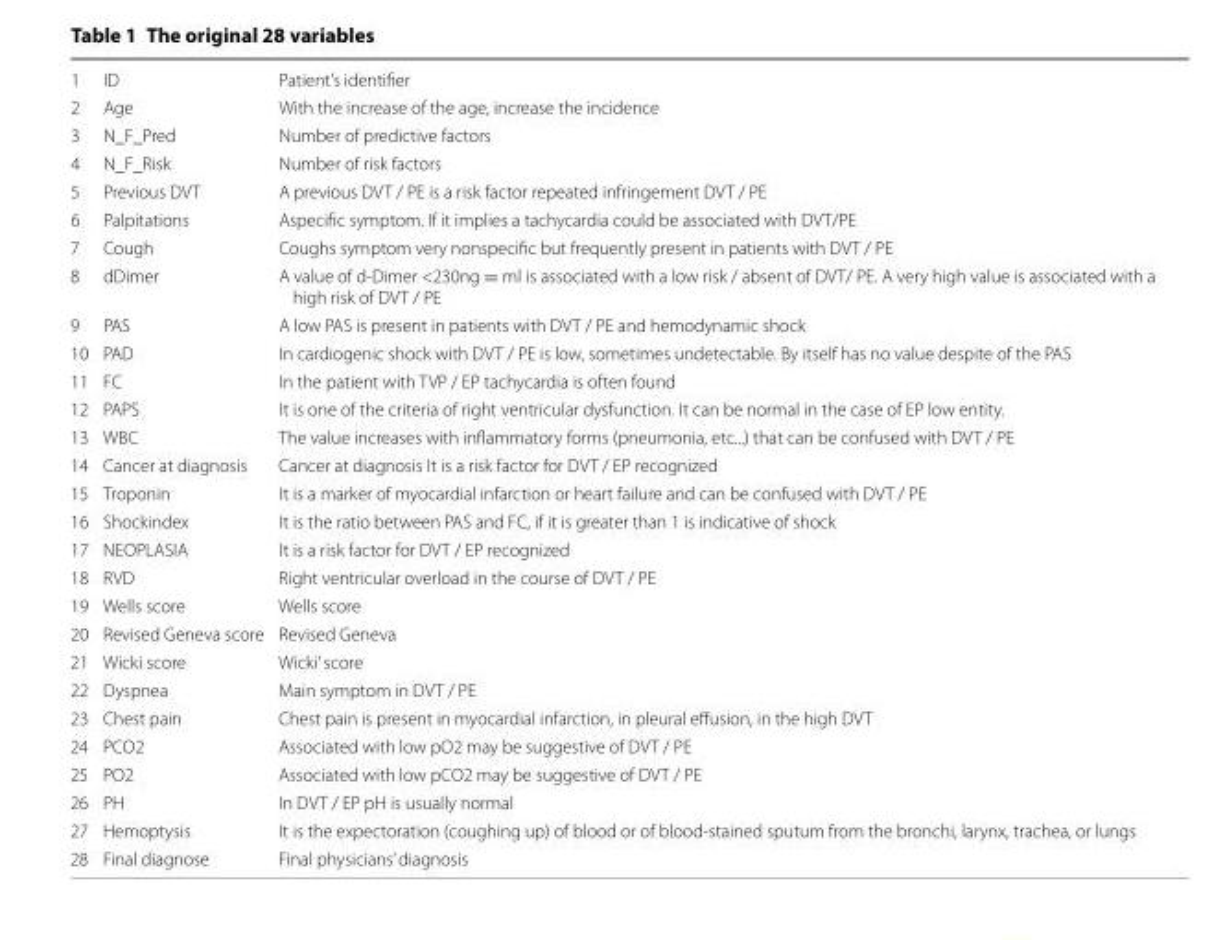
<table><tbody><tr><td>1</td><td>ID</td><td>Patient’s identifier</td></tr><tr><td>2</td><td>Age</td><td>With the increase of the age, increase the incidence</td></tr><tr><td>3</td><td>N_F_Pred</td><td>Number of predictive factors</td></tr><tr><td>4</td><td>N_F_Risk</td><td>Number of risk factors</td></tr><tr><td>5</td><td>Previous DVT</td><td>A previous DVT / PE is a risk factor repeated infringement DVT / PE</td></tr><tr><td>6</td><td>Palpitations</td><td>Aspecific symptom. If it implies a tachycardia could be associated with DVT/PE</td></tr><tr><td>7</td><td>Cough</td><td>Coughs symptom very nonspecific but frequently present in patients with DVT / PE</td></tr><tr><td>8</td><td>dDimer</td><td>A value of d‑Dimer &lt;230ng = ml is associated with a low risk / absent of DVT/ PE. A very high value is associated with a high risk of DVT / PE</td></tr><tr><td>9</td><td>PAS</td><td>A low PAS is present in patients with DVT / PE and hemodynamic shock</td></tr><tr><td>10</td><td>PAD</td><td>In cardiogenic shock with DVT / PE is low, sometimes undetectable. By itself has no value despite of the PAS</td></tr><tr><td>11</td><td>FC</td><td>In the patient with TVP / EP tachycardia is often found</td></tr><tr><td>12</td><td>PAPS</td><td>It is one of the criteria of right ventricular dysfunction. It can be normal in the case of EP low entity.</td></tr><tr><td>13</td><td>WBC</td><td>The value increases with inflammatory forms (pneumonia, etc...) that can be confused with DVT / PE</td></tr><tr><td>14</td><td>Cancer at diagnosis</td><td>Cancer at diagnosis It is a risk factor for DVT / EP recognized</td></tr><tr><td>15</td><td>Troponin</td><td>It is a marker of myocardial infarction or heart failure and can be confused with DVT / PE</td></tr><tr><td>16</td><td>Shockindex</td><td>It is the ratio between PAS and FC, if it is greater than 1 is indicative of shock</td></tr><tr><td>17</td><td>NEOPLASIA</td><td>It is a risk factor for DVT / EP recognized</td></tr><tr><td>18</td><td>RVD</td><td>Right ventricular overload in the course of DVT / PE</td></tr><tr><td>19</td><td>Wells score</td><td>Wells score</td></tr><tr><td>20</td><td>Revised Geneva score</td><td>Revised Geneva</td></tr><tr><td>21</td><td>Wicki score</td><td>Wicki’ score</td></tr><tr><td>22</td><td>Dyspnea</td><td>Main symptom in DVT / PE</td></tr><tr><td>23</td><td>Chest pain</td><td>Chest pain is present in myocardial infarction, in pleural effusion, in the high DVT</td></tr><tr><td>24</td><td>PCO2</td><td>Associated with low pO2 may be suggestive of DVT / PE</td></tr><tr><td>25</td><td>PO2</td><td>Associated with low pCO2 may be suggestive of DVT / PE</td></tr><tr><td>26</td><td>PH</td><td>In DVT / EP pH is usually normal</td></tr><tr><td>27</td><td>Hemoptysis</td><td>It is the expectoration (coughing up) of blood or of blood‑stained sputum from the bronchi, larynx, trachea, or lungs</td></tr><tr><td>28</td><td>Final diagnose</td><td>Final physicians’ diagnosis</td></tr></tbody></table>